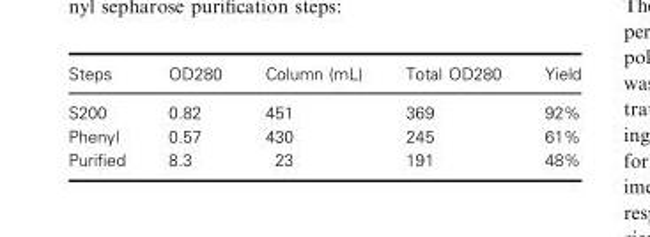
<table><thead><tr><td>Steps</td><td>OD280</td><td>Column (mL)</td><td>Total OD280</td><td>Yield</td></tr></thead><tbody><tr><td>S200</td><td>0.82</td><td>451</td><td>369</td><td>92%</td></tr><tr><td>Phenyl</td><td>0.57</td><td>430</td><td>245</td><td>61%</td></tr><tr><td>Purified</td><td>8.3</td><td>23</td><td>191</td><td>48%</td></tr></tbody></table>